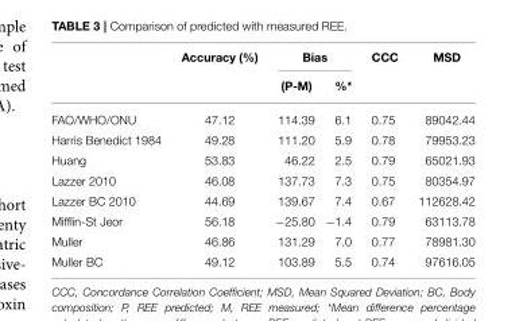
<table><thead><tr><td rowspan="2"></td><td rowspan="2">Accuracy (%)</td><td colspan="2">Bias</td><td rowspan="2">CCC</td><td rowspan="2">MSD</td></tr><tr><td>(P-M)</td><td>%*</td></tr></thead><tbody><tr><td>FAO/WHO/ONU</td><td>47.12</td><td>114.39</td><td>6.1</td><td>0.75</td><td>89042.44</td></tr><tr><td>Harris Benedict 1984</td><td>49.28</td><td>111.20</td><td>5.9</td><td>0.78</td><td>79953.23</td></tr><tr><td>Huang</td><td>53.83</td><td>46.22</td><td>2.5</td><td>0.79</td><td>65021.93</td></tr><tr><td>Lazzer 2010</td><td>46.08</td><td>137.73</td><td>7.3</td><td>0.75</td><td>80354.97</td></tr><tr><td>Lazzer BC 2010</td><td>44.69</td><td>139.67</td><td>7.4</td><td>0.67</td><td>112628.42</td></tr><tr><td>Mifflin-St Jeor</td><td>56.18</td><td>−25.80</td><td>−1.4</td><td>0.79</td><td>63113.78</td></tr><tr><td>Muller</td><td>46.86</td><td>131.29</td><td>7.0</td><td>0.77</td><td>78981.30</td></tr><tr><td>Muller BC</td><td>49.12</td><td>103.89</td><td>5.5</td><td>0.74</td><td>97616.05</td></tr></tbody></table>